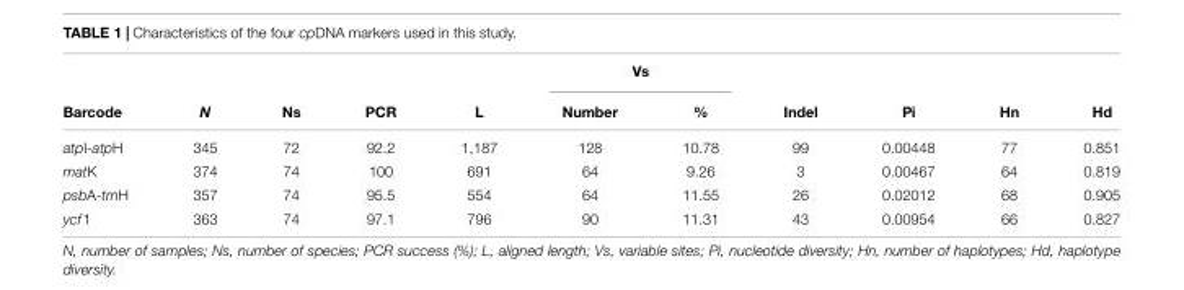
<table><thead><tr><td rowspan="2">Barcode</td><td rowspan="2">N</td><td rowspan="2">Ns</td><td rowspan="2">PCR</td><td rowspan="2">L</td><td colspan="2">Vs</td><td rowspan="2">Indel</td><td rowspan="2">Pi</td><td rowspan="2">Hn</td><td rowspan="2">Hd</td></tr><tr><td>Number</td><td>%</td></tr></thead><tbody><tr><td>atpI-atpH</td><td>345</td><td>72</td><td>92.2</td><td>1,187</td><td>128</td><td>10.78</td><td>99</td><td>0.00448</td><td>77</td><td>0.851</td></tr><tr><td>matK</td><td>374</td><td>74</td><td>100</td><td>691</td><td>64</td><td>9.26</td><td>3</td><td>0.00467</td><td>64</td><td>0.819</td></tr><tr><td>psbA-trnH</td><td>357</td><td>74</td><td>95.5</td><td>554</td><td>64</td><td>11.55</td><td>26</td><td>0.02012</td><td>68</td><td>0.905</td></tr><tr><td>ycf1</td><td>363</td><td>74</td><td>97.1</td><td>796</td><td>90</td><td>11.31</td><td>43</td><td>0.00954</td><td>66</td><td>0.827</td></tr></tbody></table>